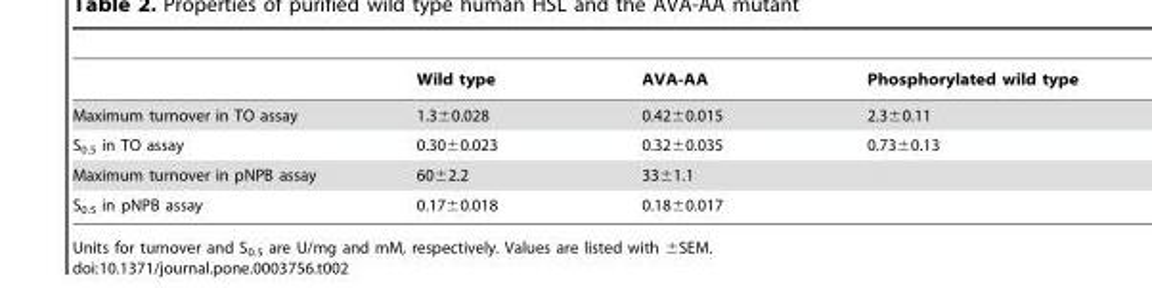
<table><thead><tr><td></td><td>Wild type</td><td>AVA-AA</td><td>Phosphorylated wild type</td></tr></thead><tbody><tr><td>Maximum turnover in TO assay</td><td>1.3±0.028</td><td>0.42±0.015</td><td>2.3±0.11</td></tr><tr><td>S<sub>0.5</sub> in TO assay</td><td>0.30±0.023</td><td>0.32±0.035</td><td>0.73±0.13</td></tr><tr><td>Maximum turnover in pNPB assay</td><td>60±2.2</td><td>33±1.1</td><td></td></tr><tr><td>S<sub>0.5</sub> in pNPB assay</td><td>0.17±0.018</td><td>0.18±0.017</td><td></td></tr></tbody></table>